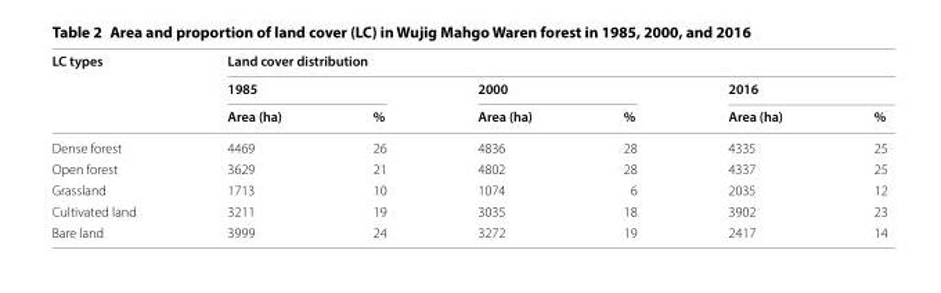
<table><thead><tr><td rowspan="3">LC types</td><td colspan="6">Land cover distribution</td></tr><tr><td colspan="2">1985</td><td colspan="2">2000</td><td colspan="2">2016</td></tr><tr><td>Area (ha)</td><td>%</td><td>Area (ha)</td><td>%</td><td>Area (ha)</td><td>%</td></tr></thead><tbody><tr><td>Dense forest</td><td>4469</td><td>26</td><td>4836</td><td>28</td><td>4335</td><td>25</td></tr><tr><td>Open forest</td><td>3629</td><td>21</td><td>4802</td><td>28</td><td>4337</td><td>25</td></tr><tr><td>Grassland</td><td>1713</td><td>10</td><td>1074</td><td>6</td><td>2035</td><td>12</td></tr><tr><td>Cultivated land</td><td>3211</td><td>19</td><td>3035</td><td>18</td><td>3902</td><td>23</td></tr><tr><td>Bare land</td><td>3999</td><td>24</td><td>3272</td><td>19</td><td>2417</td><td>14</td></tr></tbody></table>